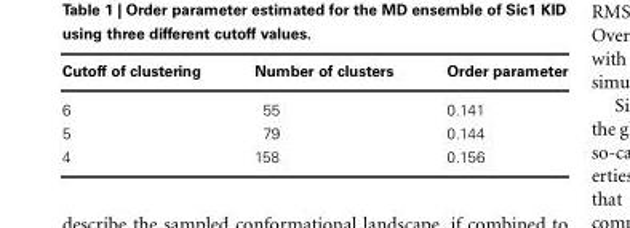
<table><thead><tr><td>Cutoff of clustering</td><td>Number of clusters</td><td>Order parameter</td></tr></thead><tbody><tr><td>6</td><td>55</td><td>0.141</td></tr><tr><td>5</td><td>79</td><td>0.144</td></tr><tr><td>4</td><td>158</td><td>0.156</td></tr></tbody></table>